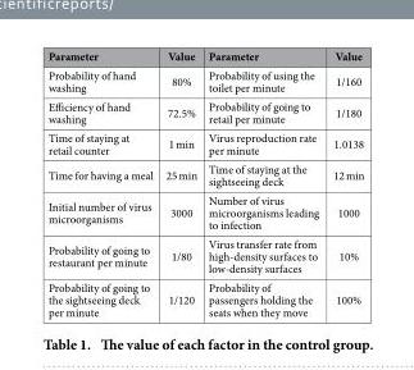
<table><thead><tr><td>Parameter</td><td>Value</td><td>Parameter</td><td>Value</td></tr></thead><tbody><tr><td>Probability of hand washing</td><td>80%</td><td>Probability of using the toilet per minute</td><td>1/160</td></tr><tr><td>Efficiency of hand washing</td><td>72.5%</td><td>Probability of going to retail per minute</td><td>1/180</td></tr><tr><td>Time of staying at retail counter</td><td>1 min</td><td>Virus reproduction rate per minute</td><td>1.0138</td></tr><tr><td>Time for having a meal</td><td>25 min</td><td>Time of staying at the sightseeing deck</td><td>12 min</td></tr><tr><td>Initial number of virus microorganisms</td><td>3000</td><td>Number of virus microorganisms leading to infection</td><td>1000</td></tr><tr><td>Probability of going to restaurant per minute</td><td>1/80</td><td>Virus transfer rate from high-density surfaces to low-density surfaces</td><td>10%</td></tr><tr><td>Probability of going to the sightseeing deck per minute</td><td>1/120</td><td>Probability of passengers holding the seats when they move</td><td>100%</td></tr></tbody></table>